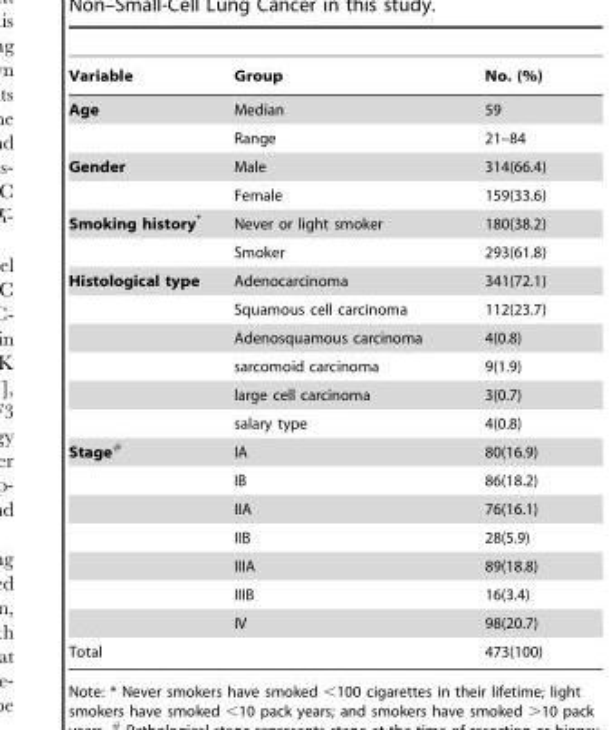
<table><thead><tr><td>Variable</td><td>Group</td><td>No. (%)</td></tr></thead><tbody><tr><td rowspan="2">Age</td><td>Median</td><td>59</td></tr><tr><td>Range</td><td>21–84</td></tr><tr><td rowspan="2">Gender</td><td>Male</td><td>314(66.4)</td></tr><tr><td>Female</td><td>159(33.6)</td></tr><tr><td rowspan="2">Smoking history*</td><td>Never or light smoker</td><td>180(38.2)</td></tr><tr><td>Smoker</td><td>293(61.8)</td></tr><tr><td rowspan="6">Histological type</td><td>Adenocarcinoma</td><td>341(72.1)</td></tr><tr><td>Squamous cell carcinoma</td><td>112(23.7)</td></tr><tr><td>Adenosquamous carcinoma</td><td>4(0.8)</td></tr><tr><td>sarcomoid carcinoma</td><td>9(1.9)</td></tr><tr><td>large cell carcinoma</td><td>3(0.7)</td></tr><tr><td>salary type</td><td>4(0.8)</td></tr><tr><td rowspan="7">Stage<sup>#</sup></td><td>IA</td><td>80(16.9)</td></tr><tr><td>IB</td><td>86(18.2)</td></tr><tr><td>IIA</td><td>76(16.1)</td></tr><tr><td>IIB</td><td>28(5.9)</td></tr><tr><td>IIIA</td><td>89(18.8)</td></tr><tr><td>IIIB</td><td>16(3.4)</td></tr><tr><td>IV</td><td>98(20.7)</td></tr><tr><td>Total</td><td></td><td>473(100)</td></tr></tbody></table>